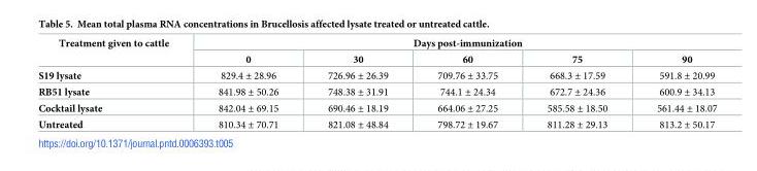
<table><thead><tr><td rowspan="2">Treatment given to cattle</td><td colspan="5">Days post-immunization</td></tr><tr><td>0</td><td>30</td><td>60</td><td>75</td><td>90</td></tr></thead><tbody><tr><td>S19 lysate</td><td>829.4 ± 28.96</td><td>726.96 ± 26.39</td><td>709.76 ± 33.75</td><td>668.3 ± 17.59</td><td>591.8 ± 20.99</td></tr><tr><td>RB51 lysate</td><td>841.98 ± 50.26</td><td>748.38 ± 31.91</td><td>744.1 ± 24.34</td><td>672.7 ± 24.36</td><td>600.9 ± 34.13</td></tr><tr><td>Cocktail lysate</td><td>842.04 ± 69.15</td><td>690.46 ± 18.19</td><td>664.06 ± 27.25</td><td>585.58 ± 18.50</td><td>561.44 ± 18.07</td></tr><tr><td>Untreated</td><td>810.34 ± 70.71</td><td>821.08 ± 48.84</td><td>798.72 ± 19.67</td><td>811.28 ± 29.13</td><td>813.2 ± 50.17</td></tr></tbody></table>